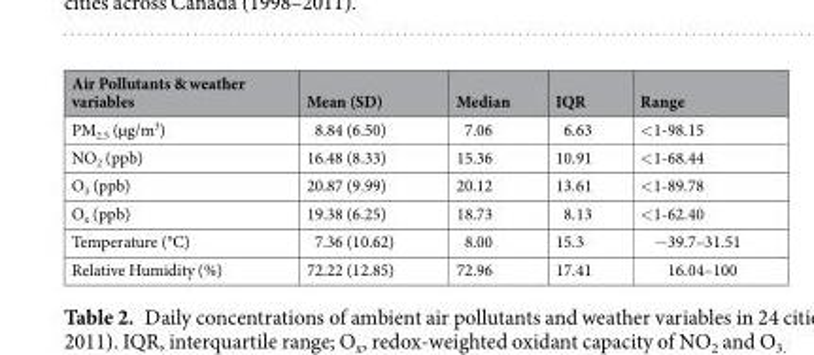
<table><thead><tr><td>Air Pollutants &amp; weather variables</td><td>Mean (SD)</td><td>Median</td><td>IQR</td><td>Range</td></tr></thead><tbody><tr><td>PM<sub>2.5</sub> (µg/m<sup>3</sup>)</td><td>8.84 (6.50)</td><td>7.06</td><td>6.63</td><td>&lt;1-98.15</td></tr><tr><td>NO<sub>2</sub> (ppb)</td><td>16.48 (8.33)</td><td>15.36</td><td>10.91</td><td>&lt;1-68.44</td></tr><tr><td>O<sub>3</sub> (ppb)</td><td>20.87 (9.99)</td><td>20.12</td><td>13.61</td><td>&lt;1-89.78</td></tr><tr><td>O<sub>x</sub> (ppb)</td><td>19.38 (6.25)</td><td>18.73</td><td>8.13</td><td>&lt;1-62.40</td></tr><tr><td>Temperature (°C)</td><td>7.36 (10.62)</td><td>8.00</td><td>15.3</td><td>−39.7–31.51</td></tr><tr><td>Relative Humidity (%)</td><td>72.22 (12.85)</td><td>72.96</td><td>17.41</td><td>16.04–100</td></tr></tbody></table>